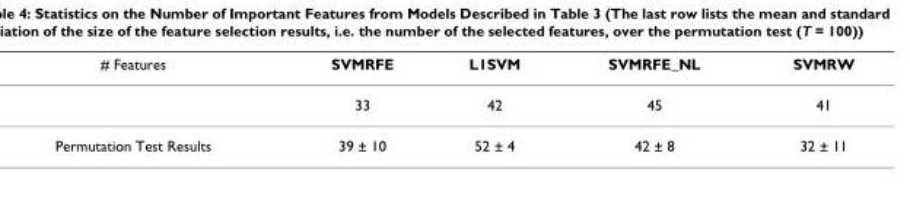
<table><thead><tr><td># Features</td><td>SVMRFE</td><td>L1SVM</td><td>SVMRFE_NL</td><td>SVMRW</td></tr></thead><tbody><tr><td></td><td>33</td><td>42</td><td>45</td><td>41</td></tr><tr><td>Permutation Test Results</td><td>39 ± 10</td><td>52 ± 4</td><td>42 ± 8</td><td>32 ± 11</td></tr></tbody></table>